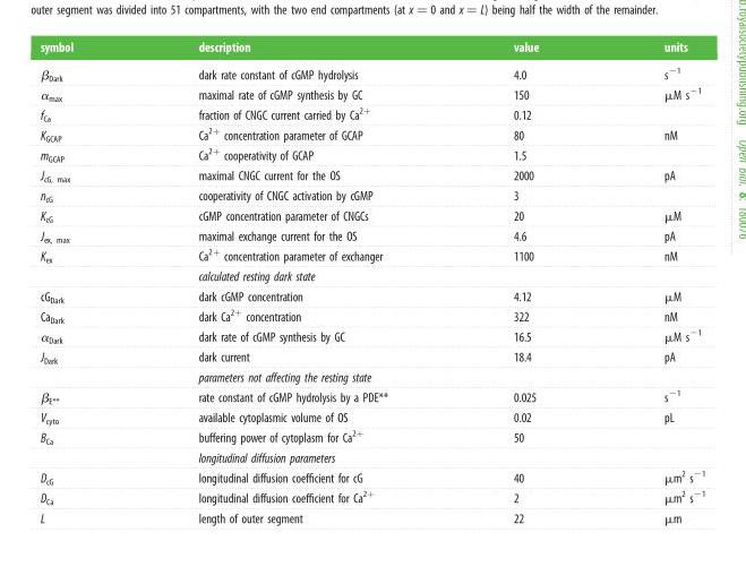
<table><thead><tr><td>symbol</td><td>description</td><td>value</td><td>units</td></tr></thead><tbody><tr><td>β<sub>Dark</sub></td><td>dark rate constant of cGMP hydrolysis</td><td>4.0</td><td>s<sup>−1</sup></td></tr><tr><td>α<sub>max</sub></td><td>maximal rate of cGMP synthesis by GC</td><td>150</td><td>µM s<sup>−1</sup></td></tr><tr><td>f<sub>Ca</sub></td><td>fraction of CNGC current carried by Ca<sup>2+</sup></td><td>0.12</td><td></td></tr><tr><td>K<sub>GCAP</sub></td><td>Ca<sup>2+</sup> concentration parameter of GCAP</td><td>80</td><td>nM</td></tr><tr><td>m<sub>GCAP</sub></td><td>Ca<sup>2+</sup> cooperativity of GCAP</td><td>1.5</td><td></td></tr><tr><td>J<sub>cG, max</sub></td><td>maximal CNGC current for the OS</td><td>2000</td><td>pA</td></tr><tr><td>n<sub>cG</sub></td><td>cooperativity of CNGC activation by cGMP</td><td>3</td><td></td></tr><tr><td>K<sub>cG</sub></td><td>cGMP concentration parameter of CNGCs</td><td>20</td><td>µM</td></tr><tr><td>J<sub>ex, max</sub></td><td>maximal exchange current for the OS</td><td>4.6</td><td>pA</td></tr><tr><td rowspan="2">K<sub>ex</sub></td><td>Ca<sup>2+</sup> concentration parameter of exchanger</td><td>1100</td><td>nM</td></tr><tr><td>calculated resting dark state</td><td></td><td></td></tr><tr><td>cG<sub>Dark</sub></td><td>dark cGMP concentration</td><td>4.12</td><td>µM</td></tr><tr><td>Ca<sub>Dark</sub></td><td>dark Ca<sup>2+</sup> concentration</td><td>322</td><td>nM</td></tr><tr><td>α<sub>Dark</sub></td><td>dark rate of cGMP synthesis by GC</td><td>16.5</td><td>µM s<sup>−1</sup></td></tr><tr><td rowspan="2">J<sub>Dark</sub></td><td>dark current</td><td>18.4</td><td>pA</td></tr><tr><td>parameters not affecting the resting state</td><td></td><td></td></tr><tr><td>β<sub>E**</sub></td><td>rate constant of cGMP hydrolysis by a PDE**</td><td>0.025</td><td>s<sup>−1</sup></td></tr><tr><td>V<sub>cyto</sub></td><td>available cytoplasmic volume of OS</td><td>0.02</td><td>pL</td></tr><tr><td rowspan="2">B<sub>Ca</sub></td><td>buffering power of cytoplasm for Ca<sup>2+</sup></td><td>50</td><td></td></tr><tr><td>longitudinal diffusion parameters</td><td></td><td></td></tr><tr><td>D<sub>cG</sub></td><td>longitudinal diffusion coefficient for cG</td><td>40</td><td>µm<sup>2</sup> s<sup>−1</sup></td></tr><tr><td>D<sub>Ca</sub></td><td>longitudinal diffusion coefficient for Ca<sup>2+</sup></td><td>2</td><td>µm<sup>2</sup> s<sup>−1</sup></td></tr><tr><td>L</td><td>length of outer segment</td><td>22</td><td>µm</td></tr></tbody></table>